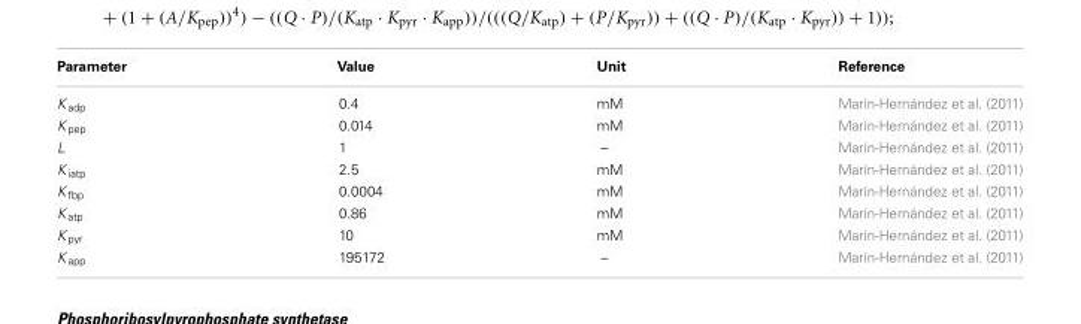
<table><thead><tr><td>Parameter</td><td>Value</td><td>Unit</td><td>Reference</td></tr></thead><tbody><tr><td>K <sub>adp</sub></td><td>0.4</td><td>mM</td><td>Marín-Hernández et al. (2011)</td></tr><tr><td>K <sub>pep</sub></td><td>0.014</td><td>mM</td><td>Marín-Hernández et al. (2011)</td></tr><tr><td>L</td><td>1</td><td>–</td><td>Marín-Hernández et al. (2011)</td></tr><tr><td>K <sub>iatp</sub></td><td>2.5</td><td>mM</td><td>Marín-Hernández et al. (2011)</td></tr><tr><td>K <sub>fbp</sub></td><td>0.0004</td><td>mM</td><td>Marín-Hernández et al. (2011)</td></tr><tr><td>K <sub>atp</sub></td><td>0.86</td><td>mM</td><td>Marín-Hernández et al. (2011)</td></tr><tr><td>K <sub>pyr</sub></td><td>10</td><td>mM</td><td>Marín-Hernández et al. (2011)</td></tr><tr><td>K <sub>app</sub></td><td>195172</td><td>–</td><td>Marín-Hernández et al. (2011)</td></tr></tbody></table>